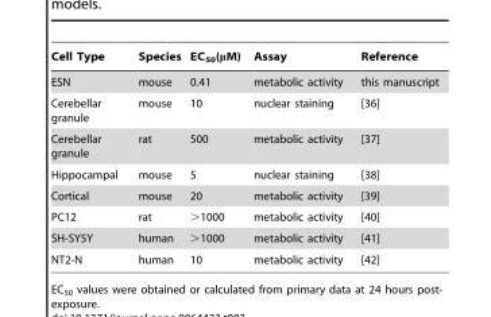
<table><thead><tr><td>Cell Type</td><td>Species</td><td>EC<sub>50</sub>(μM)</td><td>Assay</td><td>Reference</td></tr></thead><tbody><tr><td>ESN</td><td>mouse</td><td>0.41</td><td>metabolic activity</td><td>this manuscript</td></tr><tr><td>Cerebellar granule</td><td>mouse</td><td>10</td><td>nuclear staining</td><td>[36]</td></tr><tr><td>Cerebellar granule</td><td>rat</td><td>500</td><td>metabolic activity</td><td>[37]</td></tr><tr><td>Hippocampal</td><td>mouse</td><td>5</td><td>nuclear staining</td><td>[38]</td></tr><tr><td>Cortical</td><td>mouse</td><td>20</td><td>metabolic activity</td><td>[39]</td></tr><tr><td>PC12</td><td>rat</td><td>&gt;1000</td><td>metabolic activity</td><td>[40]</td></tr><tr><td>SH-SY5Y</td><td>human</td><td>&gt;1000</td><td>metabolic activity</td><td>[41]</td></tr><tr><td>NT2-N</td><td>human</td><td>10</td><td>metabolic activity</td><td>[42]</td></tr></tbody></table>